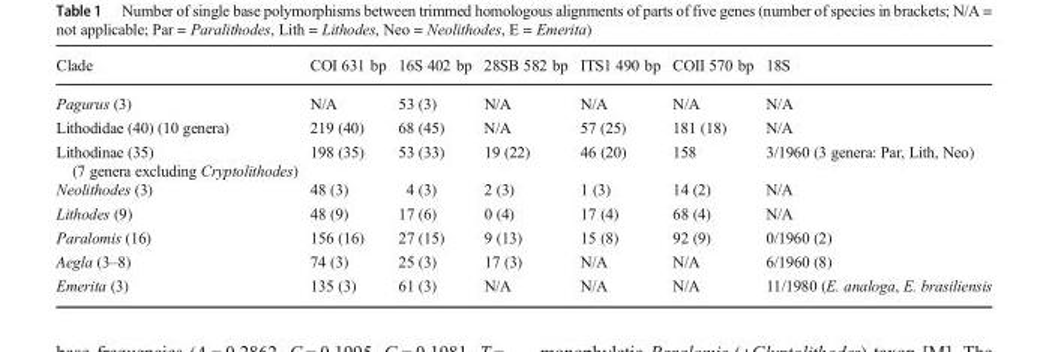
<table><thead><tr><td>Clade</td><td>COI 631 bp</td><td>16S 402 bp</td><td>28SB 582 bp</td><td>ITS1 490 bp</td><td>COII 570 bp</td><td>18S</td></tr></thead><tbody><tr><td>Pagurus (3)</td><td>N/A</td><td>53 (3)</td><td>N/A</td><td>N/A</td><td>N/A</td><td>N/A</td></tr><tr><td>Lithodidae (40) (10 genera)</td><td>219 (40)</td><td>68 (45)</td><td>N/A</td><td>57 (25)</td><td>181 (18)</td><td>N/A</td></tr><tr><td>Lithodinae (35) (7 genera excluding Cryptolithodes)</td><td>198 (35)</td><td>53 (33)</td><td>19 (22)</td><td>46 (20)</td><td>158</td><td>3/1960 (3 genera: Par, Lith, Neo)</td></tr><tr><td>Neolithodes (3)</td><td>48 (3)</td><td>4 (3)</td><td>2 (3)</td><td>1 (3)</td><td>14 (2)</td><td>N/A</td></tr><tr><td>Lithodes (9)</td><td>48 (9)</td><td>17 (6)</td><td>0 (4)</td><td>17 (4)</td><td>68 (4)</td><td>N/A</td></tr><tr><td>Paralomis (16)</td><td>156 (16)</td><td>27 (15)</td><td>9 (13)</td><td>15 (8)</td><td>92 (9)</td><td>0/1960 (2)</td></tr><tr><td>Aegla (3–8)</td><td>74 (3)</td><td>25 (3)</td><td>17 (3)</td><td>N/A</td><td>N/A</td><td>6/1960 (8)</td></tr><tr><td>Emerita (3)</td><td>135 (3)</td><td>61 (3)</td><td>N/A</td><td>N/A</td><td>N/A</td><td>11/1980 (E. analoga, E. brasiliensis</td></tr></tbody></table>